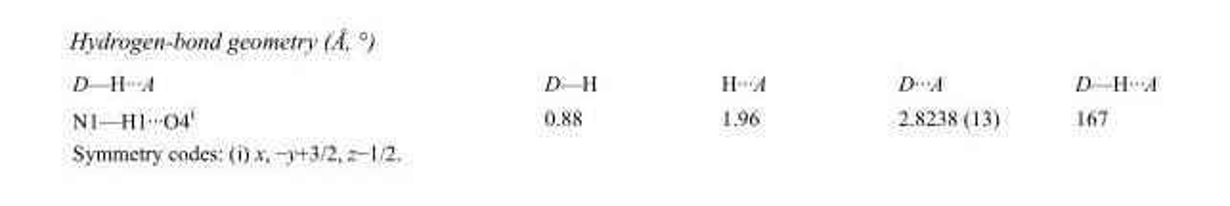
<table><tbody><tr><td>D—H···A</td><td>D—H</td><td>H···A</td><td>D···A</td><td>D—H···A</td></tr><tr><td>N1—H1···O4<sup>i</sup></td><td>0.88</td><td>1.96</td><td>2.8238 (13)</td><td>167</td></tr></tbody></table>